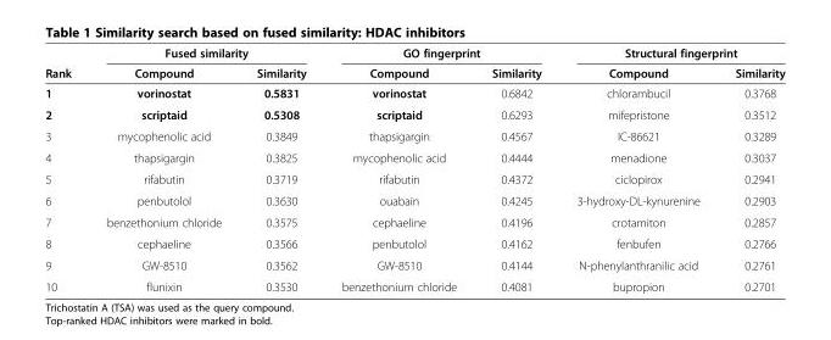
<table><thead><tr><td rowspan="2">Rank</td><td colspan="2">Fused similarity</td><td colspan="2">GO fingerprint</td><td colspan="2">Structural fingerprint</td></tr><tr><td>Compound</td><td>Similarity</td><td>Compound</td><td>Similarity</td><td>Compound</td><td>Similarity</td></tr></thead><tbody><tr><td>1</td><td>vorinostat</td><td>0.5831</td><td>vorinostat</td><td>0.6842</td><td>chlorambucil</td><td>0.3768</td></tr><tr><td>2</td><td>scriptaid</td><td>0.5308</td><td>scriptaid</td><td>0.6293</td><td>mifepristone</td><td>0.3512</td></tr><tr><td>3</td><td>mycophenolic acid</td><td>0.3849</td><td>thapsigargin</td><td>0.4567</td><td>IC-86621</td><td>0.3289</td></tr><tr><td>4</td><td>thapsigargin</td><td>0.3825</td><td>mycophenolic acid</td><td>0.4444</td><td>menadione</td><td>0.3037</td></tr><tr><td>5</td><td>rifabutin</td><td>0.3719</td><td>rifabutin</td><td>0.4372</td><td>ciclopirox</td><td>0.2941</td></tr><tr><td>6</td><td>penbutolol</td><td>0.3630</td><td>ouabain</td><td>0.4245</td><td>3-hydroxy-DL-kynurenine</td><td>0.2903</td></tr><tr><td>7</td><td>benzethonium chloride</td><td>0.3575</td><td>cephaeline</td><td>0.4196</td><td>crotamiton</td><td>0.2857</td></tr><tr><td>8</td><td>cephaeline</td><td>0.3566</td><td>penbutolol</td><td>0.4162</td><td>fenbufen</td><td>0.2766</td></tr><tr><td>9</td><td>GW-8510</td><td>0.3562</td><td>GW-8510</td><td>0.4144</td><td>N-phenylanthranilic acid</td><td>0.2761</td></tr><tr><td>10</td><td>flunixin</td><td>0.3530</td><td>benzethonium chloride</td><td>0.4081</td><td>bupropion</td><td>0.2701</td></tr></tbody></table>